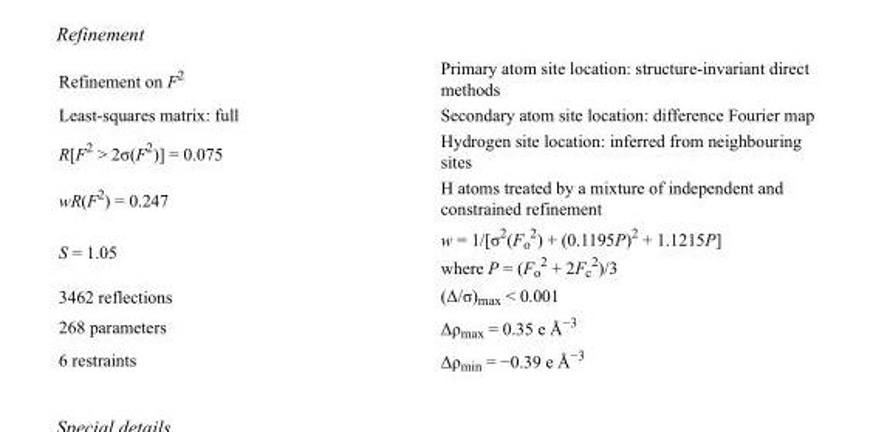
<table><tbody><tr><td>Refinement on F<sup>2</sup></td><td>Primary atom site location: structure-invariant direct methods</td></tr><tr><td>Least-squares matrix: full</td><td>Secondary atom site location: difference Fourier map</td></tr><tr><td>R[F<sup>2</sup> &gt; 2σ(F<sup>2</sup>)] = 0.075</td><td>Hydrogen site location: inferred from neighbouring sites</td></tr><tr><td>wR(F<sup>2</sup>) = 0.247</td><td>H atoms treated by a mixture of independent and constrained refinement</td></tr><tr><td>S = 1.05</td><td>w = 1/[σ<sup>2</sup>(F<sub>o</sub> <sup>2</sup>) + (0.1195P)<sup>2</sup> + 1.1215P] where P = (F<sub>o</sub> <sup>2</sup> + 2F<sub>c</sub> <sup>2</sup>)/3</td></tr><tr><td>3462 reflections</td><td>(Δ/σ)<sub>max</sub> &lt; 0.001</td></tr><tr><td>268 parameters</td><td>Δρ<sub>max</sub> = 0.35 e Å<sup>−3</sup></td></tr><tr><td>6 restraints</td><td>Δρ<sub>min</sub> = −0.39 e Å<sup>−3</sup></td></tr></tbody></table>